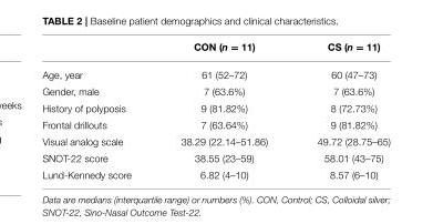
<table><thead><tr><td></td><td>CON (n = 11)</td><td>CS (n = 11)</td></tr></thead><tbody><tr><td>Age, year</td><td>61 (52–72)</td><td>60 (47–73)</td></tr><tr><td>Gender, male</td><td>7 (63.6%)</td><td>7 (63.6%)</td></tr><tr><td>History of polyposis</td><td>9 (81.82%)</td><td>8 (72.73%)</td></tr><tr><td>Frontal drillouts</td><td>7 (63.64%)</td><td>9 (81.82%)</td></tr><tr><td>Visual analog scale</td><td>38.29 (22.14–51.86)</td><td>49.72 (28.75–65)</td></tr><tr><td>SNOT-22 score</td><td>38.55 (23–59)</td><td>58.01 (43–75)</td></tr><tr><td>Lund-Kennedy score</td><td>6.82 (4–10)</td><td>8.57 (6–10)</td></tr></tbody></table>